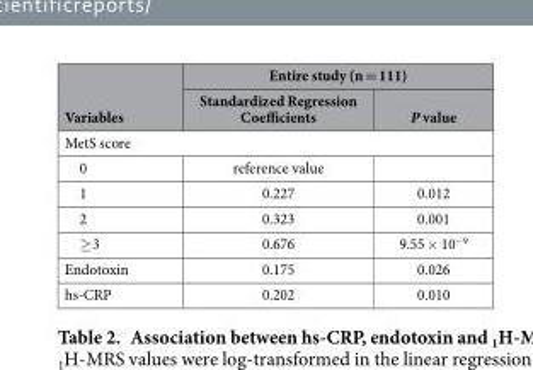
<table><thead><tr><td rowspan="2">Variables</td><td colspan="2">Entire study (n = 111)</td></tr><tr><td>Standardized Regression Coefficients</td><td>P value</td></tr></thead><tbody><tr><td colspan="3">MetS score</td></tr><tr><td>0</td><td>reference value</td><td></td></tr><tr><td>1</td><td>0.227</td><td>0.012</td></tr><tr><td>2</td><td>0.323</td><td>0.001</td></tr><tr><td>≥ 3</td><td>0.676</td><td>9.55 × 10<sup>−9</sup></td></tr><tr><td>Endotoxin</td><td>0.175</td><td>0.026</td></tr><tr><td>hs-CRP</td><td>0.202</td><td>0.010</td></tr></tbody></table>